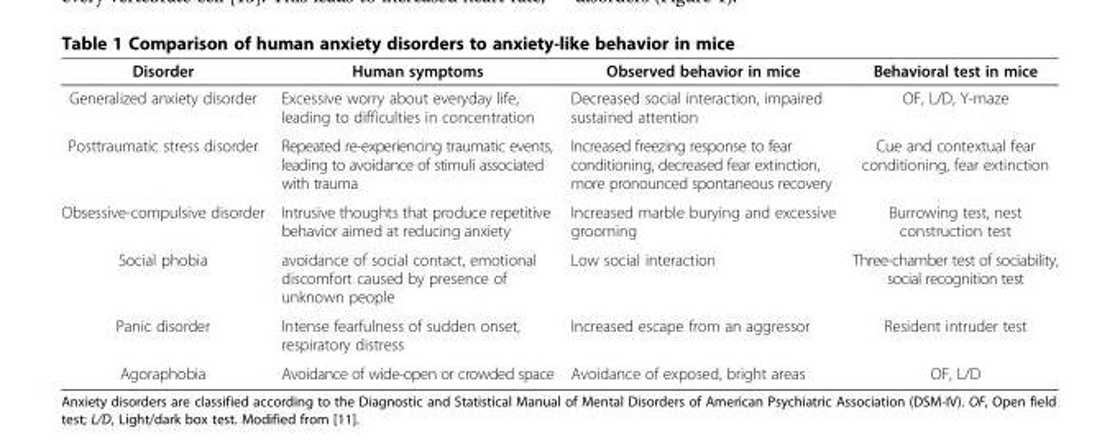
<table><thead><tr><td>Disorder</td><td>Human symptoms</td><td>Observed behavior in mice</td><td>Behavioral test in mice</td></tr></thead><tbody><tr><td>Generalized anxiety disorder</td><td>Excessive worry about everyday life, leading to difficulties in concentration</td><td>Decreased social interaction, impaired sustained attention</td><td>OF, L/D, Y-maze</td></tr><tr><td>Posttraumatic stress disorder</td><td>Repeated re-experiencing traumatic events, leading to avoidance of stimuli associated with trauma</td><td>Increased freezing response to fear conditioning, decreased fear extinction, more pronounced spontaneous recovery</td><td>Cue and contextual fear conditioning, fear extinction</td></tr><tr><td>Obsessive-compulsive disorder</td><td>Intrusive thoughts that produce repetitive behavior aimed at reducing anxiety</td><td>Increased marble burying and excessive grooming</td><td>Burrowing test, nest construction test</td></tr><tr><td>Social phobia</td><td>avoidance of social contact, emotional discomfort caused by presence of unknown people</td><td>Low social interaction</td><td>Three-chamber test of sociability, social recognition test</td></tr><tr><td>Panic disorder</td><td>Intense fearfulness of sudden onset, respiratory distress</td><td>Increased escape from an aggressor</td><td>Resident intruder test</td></tr><tr><td>Agoraphobia</td><td>Avoidance of wide-open or crowded space</td><td>Avoidance of exposed, bright areas</td><td>OF, L/D</td></tr></tbody></table>